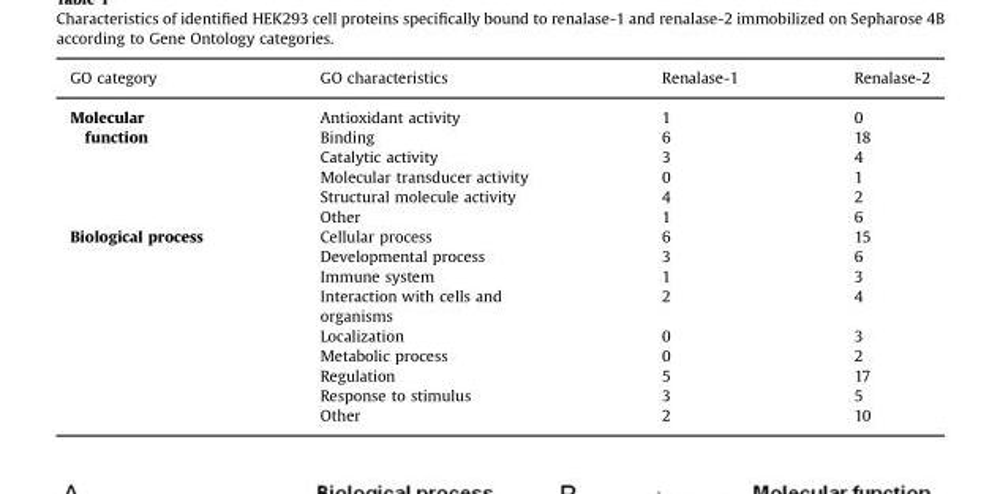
<table><thead><tr><td>GO category</td><td>GO characteristics</td><td>Renalase-1</td><td>Renalase-2</td></tr></thead><tbody><tr><td rowspan="6">Molecular function</td><td>Antioxidant activity</td><td>1</td><td>0</td></tr><tr><td>Binding</td><td>6</td><td>18</td></tr><tr><td>Catalytic activity</td><td>3</td><td>4</td></tr><tr><td>Molecular transducer activity</td><td>0</td><td>1</td></tr><tr><td>Structural molecule activity</td><td>4</td><td>2</td></tr><tr><td>Other</td><td>1</td><td>6</td></tr><tr><td rowspan="9">Biological process</td><td>Cellular process</td><td>6</td><td>15</td></tr><tr><td>Developmental process</td><td>3</td><td>6</td></tr><tr><td>Immune system</td><td>1</td><td>3</td></tr><tr><td>Interaction with cells and organisms</td><td>2</td><td>4</td></tr><tr><td>Localization</td><td>0</td><td>3</td></tr><tr><td>Metabolic process</td><td>0</td><td>2</td></tr><tr><td>Regulation</td><td>5</td><td>17</td></tr><tr><td>Response to stimulus</td><td>3</td><td>5</td></tr><tr><td>Other</td><td>2</td><td>10</td></tr></tbody></table>